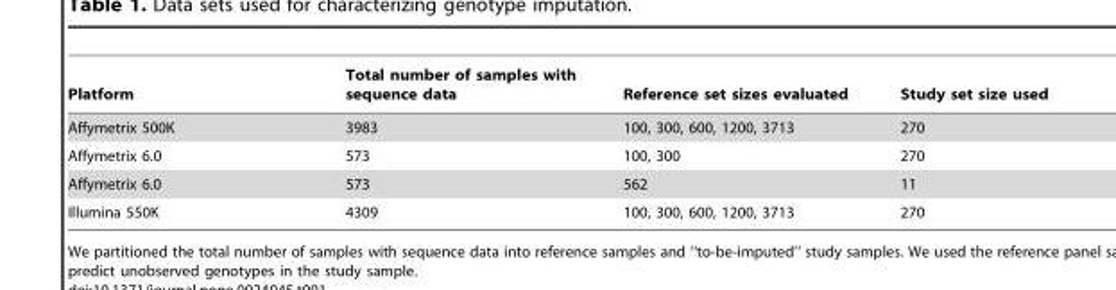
<table><thead><tr><td>Platform</td><td>Total number of samples with sequence data</td><td>Reference set sizes evaluated</td><td>Study set size used</td></tr></thead><tbody><tr><td>Affymetrix 500K</td><td>3983</td><td>100, 300, 600, 1200, 3713</td><td>270</td></tr><tr><td>Affymetrix 6.0</td><td>573</td><td>100, 300</td><td>270</td></tr><tr><td>Affymetrix 6.0</td><td>573</td><td>562</td><td>11</td></tr><tr><td>Illumina 550K</td><td>4309</td><td>100, 300, 600, 1200, 3713</td><td>270</td></tr></tbody></table>